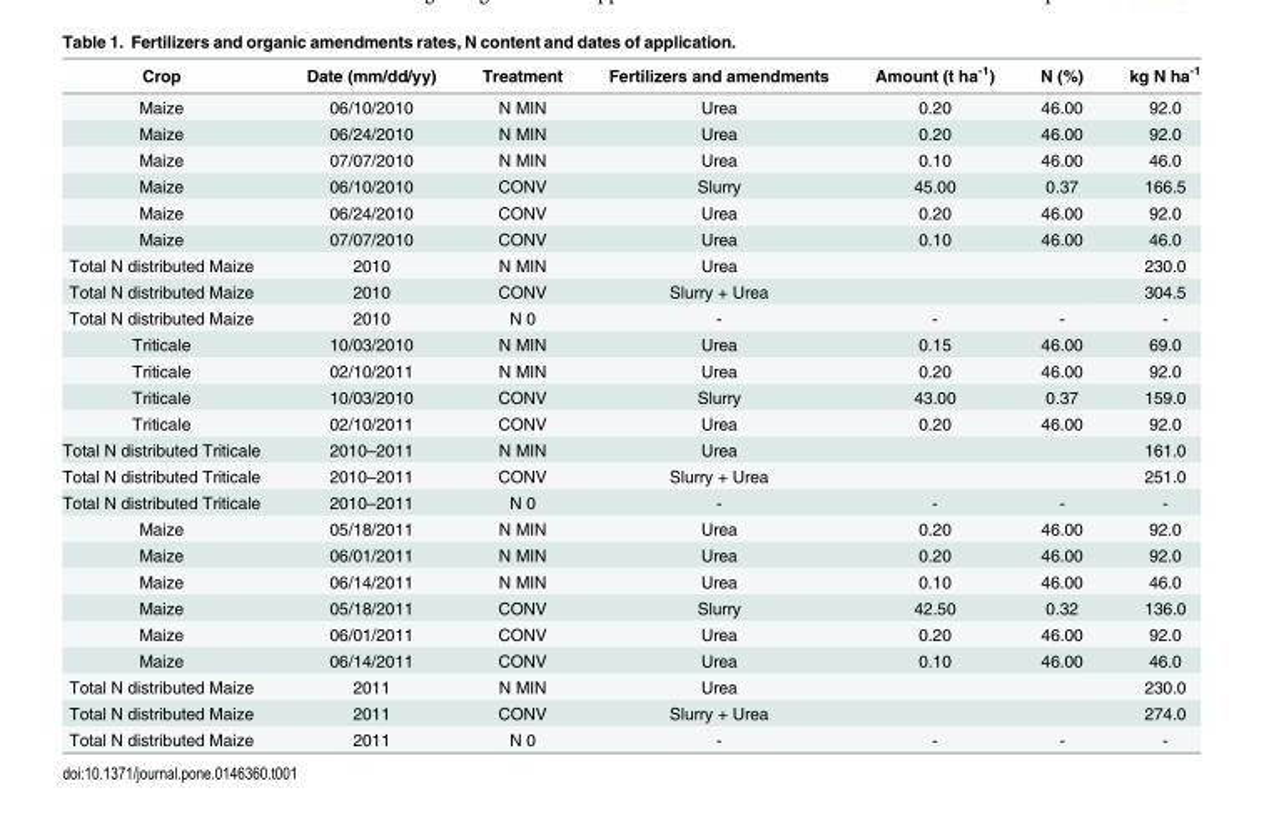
<table><thead><tr><td>Crop</td><td>Date (mm/dd/yy)</td><td>Treatment</td><td>Fertilizers and amendments</td><td>Amount (t ha<sup>-1</sup>)</td><td>N (%)</td><td>kg N ha<sup>-1</sup></td></tr></thead><tbody><tr><td>Maize</td><td>06/10/2010</td><td>N MIN</td><td>Urea</td><td>0.20</td><td>46.00</td><td>92.0</td></tr><tr><td>Maize</td><td>06/24/2010</td><td>N MIN</td><td>Urea</td><td>0.20</td><td>46.00</td><td>92.0</td></tr><tr><td>Maize</td><td>07/07/2010</td><td>N MIN</td><td>Urea</td><td>0.10</td><td>46.00</td><td>46.0</td></tr><tr><td>Maize</td><td>06/10/2010</td><td>CONV</td><td>Slurry</td><td>45.00</td><td>0.37</td><td>166.5</td></tr><tr><td>Maize</td><td>06/24/2010</td><td>CONV</td><td>Urea</td><td>0.20</td><td>46.00</td><td>92.0</td></tr><tr><td>Maize</td><td>07/07/2010</td><td>CONV</td><td>Urea</td><td>0.10</td><td>46.00</td><td>46.0</td></tr><tr><td>Total N distributed Maize</td><td>2010</td><td>N MIN</td><td>Urea</td><td></td><td></td><td>230.0</td></tr><tr><td>Total N distributed Maize</td><td>2010</td><td>CONV</td><td>Slurry + Urea</td><td></td><td></td><td>304.5</td></tr><tr><td>Total N distributed Maize</td><td>2010</td><td>N 0</td><td>-</td><td>-</td><td>-</td><td>-</td></tr><tr><td>Triticale</td><td>10/03/2010</td><td>N MIN</td><td>Urea</td><td>0.15</td><td>46.00</td><td>69.0</td></tr><tr><td>Triticale</td><td>02/10/2011</td><td>N MIN</td><td>Urea</td><td>0.20</td><td>46.00</td><td>92.0</td></tr><tr><td>Triticale</td><td>10/03/2010</td><td>CONV</td><td>Slurry</td><td>43.00</td><td>0.37</td><td>159.0</td></tr><tr><td>Triticale</td><td>02/10/2011</td><td>CONV</td><td>Urea</td><td>0.20</td><td>46.00</td><td>92.0</td></tr><tr><td>Total N distributed Triticale</td><td>2010–2011</td><td>N MIN</td><td>Urea</td><td></td><td></td><td>161.0</td></tr><tr><td>Total N distributed Triticale</td><td>2010–2011</td><td>CONV</td><td>Slurry + Urea</td><td></td><td></td><td>251.0</td></tr><tr><td>Total N distributed Triticale</td><td>2010–2011</td><td>N 0</td><td>-</td><td>-</td><td>-</td><td>-</td></tr><tr><td>Maize</td><td>05/18/2011</td><td>N MIN</td><td>Urea</td><td>0.20</td><td>46.00</td><td>92.0</td></tr><tr><td>Maize</td><td>06/01/2011</td><td>N MIN</td><td>Urea</td><td>0.20</td><td>46.00</td><td>92.0</td></tr><tr><td>Maize</td><td>06/14/2011</td><td>N MIN</td><td>Urea</td><td>0.10</td><td>46.00</td><td>46.0</td></tr><tr><td>Maize</td><td>05/18/2011</td><td>CONV</td><td>Slurry</td><td>42.50</td><td>0.32</td><td>136.0</td></tr><tr><td>Maize</td><td>06/01/2011</td><td>CONV</td><td>Urea</td><td>0.20</td><td>46.00</td><td>92.0</td></tr><tr><td>Maize</td><td>06/14/2011</td><td>CONV</td><td>Urea</td><td>0.10</td><td>46.00</td><td>46.0</td></tr><tr><td>Total N distributed Maize</td><td>2011</td><td>N MIN</td><td>Urea</td><td></td><td></td><td>230.0</td></tr><tr><td>Total N distributed Maize</td><td>2011</td><td>CONV</td><td>Slurry + Urea</td><td></td><td></td><td>274.0</td></tr><tr><td>Total N distributed Maize</td><td>2011</td><td>N 0</td><td>-</td><td>-</td><td>-</td><td>-</td></tr></tbody></table>